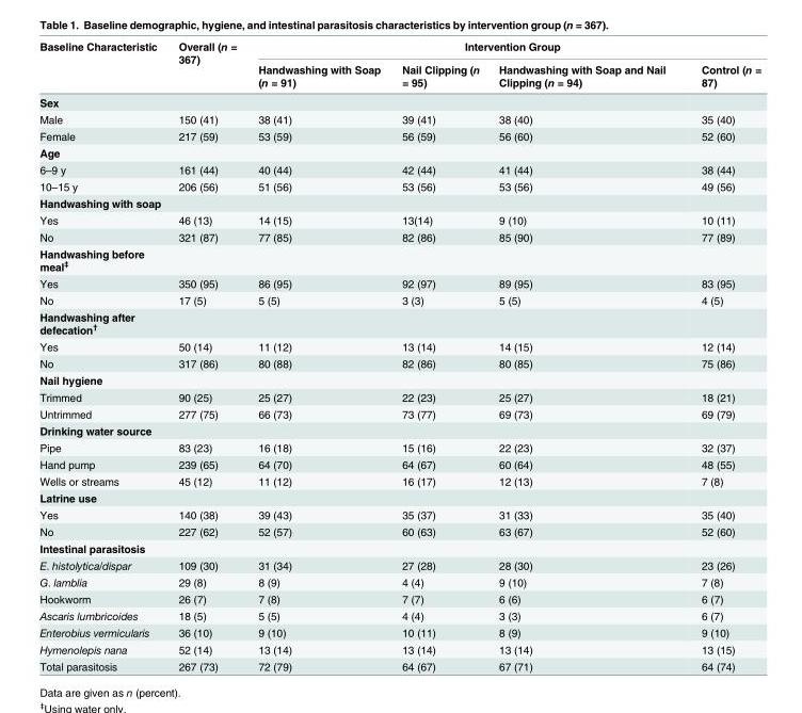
<table><thead><tr><td rowspan="2">Baseline Characteristic</td><td rowspan="2">Overall (n = 367)</td><td colspan="4">Intervention Group</td></tr><tr><td>Handwashing with Soap (n = 91)</td><td>Nail Clipping (n = 95)</td><td>Handwashing with Soap and Nail Clipping (n = 94)</td><td>Control (n = 87)</td></tr></thead><tbody><tr><td colspan="6">Sex</td></tr><tr><td>Male</td><td>150 (41)</td><td>38 (41)</td><td>39 (41)</td><td>38 (40)</td><td>35 (40)</td></tr><tr><td>Female</td><td>217 (59)</td><td>53 (59)</td><td>56 (59)</td><td>56 (60)</td><td>52 (60)</td></tr><tr><td colspan="6">Age</td></tr><tr><td>6–9 y</td><td>161 (44)</td><td>40 (44)</td><td>42 (44)</td><td>41 (44)</td><td>38 (44)</td></tr><tr><td>10–15 y</td><td>206 (56)</td><td>51 (56)</td><td>53 (56)</td><td>53 (56)</td><td>49 (56)</td></tr><tr><td colspan="6">Handwashing with soap</td></tr><tr><td>Yes</td><td>46 (13)</td><td>14 (15)</td><td>13(14)</td><td>9 (10)</td><td>10 (11)</td></tr><tr><td>No</td><td>321 (87)</td><td>77 (85)</td><td>82 (86)</td><td>85 (90)</td><td>77 (89)</td></tr><tr><td colspan="6">Handwashing before meal<sup>‡</sup></td></tr><tr><td>Yes</td><td>350 (95)</td><td>86 (95)</td><td>92 (97)</td><td>89 (95)</td><td>83 (95)</td></tr><tr><td>No</td><td>17 (5)</td><td>5 (5)</td><td>3 (3)</td><td>5 (5)</td><td>4 (5)</td></tr><tr><td colspan="6">Handwashing after defecation<sup>†</sup></td></tr><tr><td>Yes</td><td>50 (14)</td><td>11 (12)</td><td>13 (14)</td><td>14 (15)</td><td>12 (14)</td></tr><tr><td>No</td><td>317 (86)</td><td>80 (88)</td><td>82 (86)</td><td>80 (85)</td><td>75 (86)</td></tr><tr><td colspan="6">Nail hygiene</td></tr><tr><td>Trimmed</td><td>90 (25)</td><td>25 (27)</td><td>22 (23)</td><td>25 (27)</td><td>18 (21)</td></tr><tr><td>Untrimmed</td><td>277 (75)</td><td>66 (73)</td><td>73 (77)</td><td>69 (73)</td><td>69 (79)</td></tr><tr><td colspan="6">Drinking water source</td></tr><tr><td>Pipe</td><td>83 (23)</td><td>16 (18)</td><td>15 (16)</td><td>22 (23)</td><td>32 (37)</td></tr><tr><td>Hand pump</td><td>239 (65)</td><td>64 (70)</td><td>64 (67)</td><td>60 (64)</td><td>48 (55)</td></tr><tr><td>Wells or streams</td><td>45 (12)</td><td>11 (12)</td><td>16 (17)</td><td>12 (13)</td><td>7 (8)</td></tr><tr><td colspan="6">Latrine use</td></tr><tr><td>Yes</td><td>140 (38)</td><td>39 (43)</td><td>35 (37)</td><td>31 (33)</td><td>35 (40)</td></tr><tr><td>No</td><td>227 (62)</td><td>52 (57)</td><td>60 (63)</td><td>63 (67)</td><td>52 (60)</td></tr><tr><td colspan="6">Intestinal parasitosis</td></tr><tr><td>E. histolytica/dispar</td><td>109 (30)</td><td>31 (34)</td><td>27 (28)</td><td>28 (30)</td><td>23 (26)</td></tr><tr><td>G. lamblia</td><td>29 (8)</td><td>8 (9)</td><td>4 (4)</td><td>9 (10)</td><td>7 (8)</td></tr><tr><td>Hookworm</td><td>26 (7)</td><td>7 (8)</td><td>7 (7)</td><td>6 (6)</td><td>6 (7)</td></tr><tr><td>Ascaris lumbricoides</td><td>18 (5)</td><td>5 (5)</td><td>4 (4)</td><td>3 (3)</td><td>6 (7)</td></tr><tr><td>Enterobius vermicularis</td><td>36 (10)</td><td>9 (10)</td><td>10 (11)</td><td>8 (9)</td><td>9 (10)</td></tr><tr><td>Hymenolepis nana</td><td>52 (14)</td><td>13 (14)</td><td>13 (14)</td><td>13 (14)</td><td>13 (15)</td></tr><tr><td>Total parasitosis</td><td>267 (73)</td><td>72 (79)</td><td>64 (67)</td><td>67 (71)</td><td>64 (74)</td></tr></tbody></table>